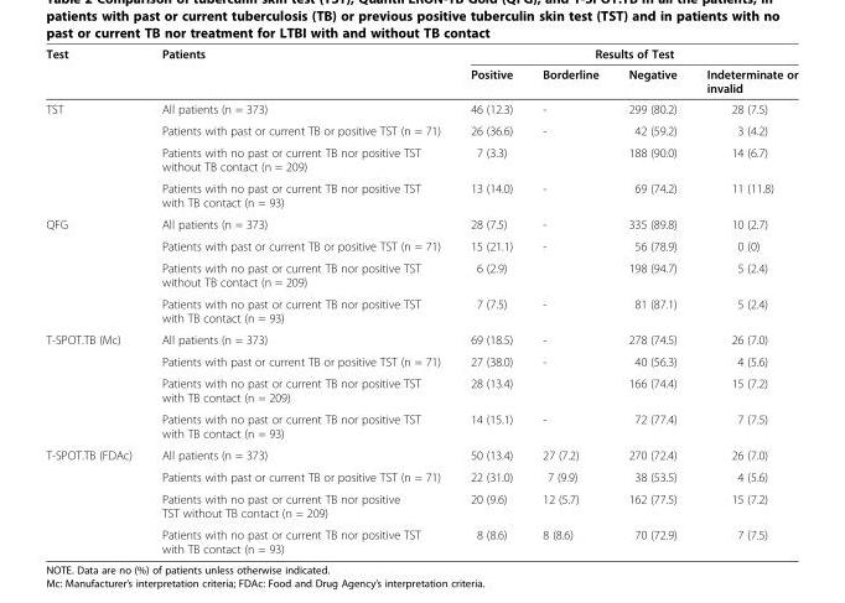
<table><thead><tr><td rowspan="2">Test</td><td rowspan="2">Patients</td><td colspan="4">Results of Test</td></tr><tr><td>Positive</td><td>Borderline</td><td>Negative</td><td>Indeterminate or invalid</td></tr></thead><tbody><tr><td rowspan="4">TST</td><td>All patients (n = 373)</td><td>46 (12.3)</td><td>-</td><td>299 (80.2)</td><td>28 (7.5)</td></tr><tr><td>Patients with past or current TB or positive TST (n = 71)</td><td>26 (36.6)</td><td>-</td><td>42 (59.2)</td><td>3 (4.2)</td></tr><tr><td>Patients with no past or current TB nor positive TST without TB contact (n = 209)</td><td>7 (3.3)</td><td></td><td>188 (90.0)</td><td>14 (6.7)</td></tr><tr><td>Patients with no past or current TB nor positive TST with TB contact (n = 93)</td><td>13 (14.0)</td><td>-</td><td>69 (74.2)</td><td>11 (11.8)</td></tr><tr><td rowspan="4">QFG</td><td>All patients (n = 373)</td><td>28 (7.5)</td><td>-</td><td>335 (89.8)</td><td>10 (2.7)</td></tr><tr><td>Patients with past or current TB or positive TST (n = 71)</td><td>15 (21.1)</td><td>-</td><td>56 (78.9)</td><td>0 (0)</td></tr><tr><td>Patients with no past or current TB nor positive TST without TB contact (n = 209)</td><td>6 (2.9)</td><td></td><td>198 (94.7)</td><td>5 (2.4)</td></tr><tr><td>Patients with no past or current TB nor positive TST with TB contact (n = 93)</td><td>7 (7.5)</td><td>-</td><td>81 (87.1)</td><td>5 (2.4)</td></tr><tr><td rowspan="4">T-SPOT.TB (Mc)</td><td>All patients (n = 373)</td><td>69 (18.5)</td><td>-</td><td>278 (74.5)</td><td>26 (7.0)</td></tr><tr><td>Patients with past or current TB or positive TST (n = 71)</td><td>27 (38.0)</td><td>-</td><td>40 (56.3)</td><td>4 (5.6)</td></tr><tr><td>Patients with no past or current TB nor positive TST with TB contact (n = 209)</td><td>28 (13.4)</td><td></td><td>166 (74.4)</td><td>15 (7.2)</td></tr><tr><td>Patients with no past or current TB nor positive TST with TB contact (n = 93)</td><td>14 (15.1)</td><td>-</td><td>72 (77.4)</td><td>7 (7.5)</td></tr><tr><td rowspan="4">T-SPOT.TB (FDAc)</td><td>All patients (n = 373)</td><td>50 (13.4)</td><td>27 (7.2)</td><td>270 (72.4)</td><td>26 (7.0)</td></tr><tr><td>Patients with past or current TB or positive TST (n = 71)</td><td>22 (31.0)</td><td>7 (9.9)</td><td>38 (53.5)</td><td>4 (5.6)</td></tr><tr><td>Patients with no past or current TB nor positive TST without TB contact (n = 209)</td><td>20 (9.6)</td><td>12 (5.7)</td><td>162 (77.5)</td><td>15 (7.2)</td></tr><tr><td>Patients with no past or current TB nor positive TST with TB contact (n = 93)</td><td>8 (8.6)</td><td>8 (8.6)</td><td>70 (72.9)</td><td>7 (7.5)</td></tr></tbody></table>